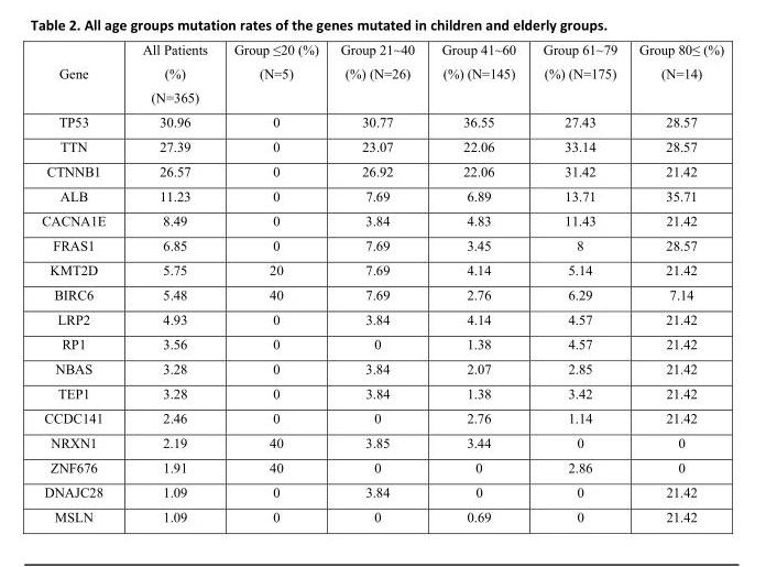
<table><tbody><tr><td>Gene</td><td>All Patients (%) (N=365)</td><td>Group ≤20 (%) (N=5)</td><td>Group 21~40 (%) (N=26)</td><td>Group 41~60 (%) (N=145)</td><td>Group 61~79 (%) (N=175)</td><td>Group 80≤ (%) (N=14)</td></tr><tr><td>TP53</td><td>30.96</td><td>0</td><td>30.77</td><td>36.55</td><td>27.43</td><td>28.57</td></tr><tr><td>TTN</td><td>27.39</td><td>0</td><td>23.07</td><td>22.06</td><td>33.14</td><td>28.57</td></tr><tr><td>CTNNB1</td><td>26.57</td><td>0</td><td>26.92</td><td>22.06</td><td>31.42</td><td>21.42</td></tr><tr><td>ALB</td><td>11.23</td><td>0</td><td>7.69</td><td>6.89</td><td>13.71</td><td>35.71</td></tr><tr><td>CACNA1E</td><td>8.49</td><td>0</td><td>3.84</td><td>4.83</td><td>11.43</td><td>21.42</td></tr><tr><td>FRAS1</td><td>6.85</td><td>0</td><td>7.69</td><td>3.45</td><td>8</td><td>28.57</td></tr><tr><td>KMT2D</td><td>5.75</td><td>20</td><td>7.69</td><td>4.14</td><td>5.14</td><td>21.42</td></tr><tr><td>BIRC6</td><td>5.48</td><td>40</td><td>7.69</td><td>2.76</td><td>6.29</td><td>7.14</td></tr><tr><td>LRP2</td><td>4.93</td><td>0</td><td>3.84</td><td>4.14</td><td>4.57</td><td>21.42</td></tr><tr><td>RP1</td><td>3.56</td><td>0</td><td>0</td><td>1.38</td><td>4.57</td><td>21.42</td></tr><tr><td>NBAS</td><td>3.28</td><td>0</td><td>3.84</td><td>2.07</td><td>2.85</td><td>21.42</td></tr><tr><td>TEP1</td><td>3.28</td><td>0</td><td>3.84</td><td>1.38</td><td>3.42</td><td>21.42</td></tr><tr><td>CCDC141</td><td>2.46</td><td>0</td><td>0</td><td>2.76</td><td>1.14</td><td>21.42</td></tr><tr><td>NRXN1</td><td>2.19</td><td>40</td><td>3.85</td><td>3.44</td><td>0</td><td>0</td></tr><tr><td>ZNF676</td><td>1.91</td><td>40</td><td>0</td><td>0</td><td>2.86</td><td>0</td></tr><tr><td>DNAJC28</td><td>1.09</td><td>0</td><td>3.84</td><td>0</td><td>0</td><td>21.42</td></tr><tr><td>MSLN</td><td>1.09</td><td>0</td><td>0</td><td>0.69</td><td>0</td><td>21.42</td></tr></tbody></table>